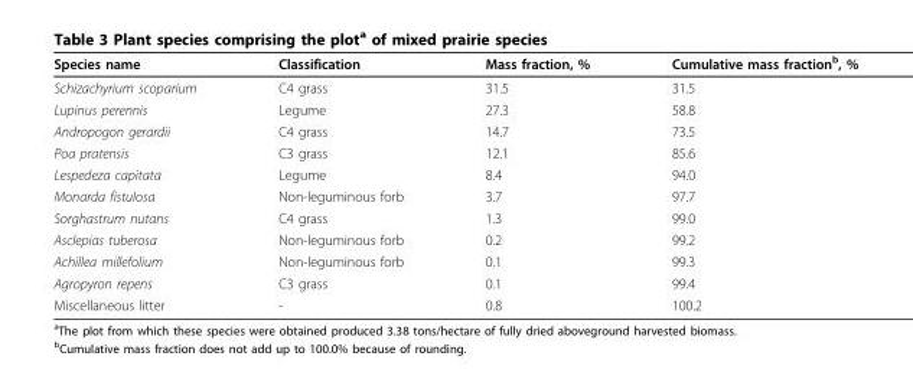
<table><thead><tr><td>Species name</td><td>Classification</td><td>Mass fraction, %</td><td>Cumulative mass fraction<sup>b</sup>, %</td></tr></thead><tbody><tr><td>Schizachyrium scoparium</td><td>C4 grass</td><td>31.5</td><td>31.5</td></tr><tr><td>Lupinus perennis</td><td>Legume</td><td>27.3</td><td>58.8</td></tr><tr><td>Andropogon gerardii</td><td>C4 grass</td><td>14.7</td><td>73.5</td></tr><tr><td>Poa pratensis</td><td>C3 grass</td><td>12.1</td><td>85.6</td></tr><tr><td>Lespedeza capitata</td><td>Legume</td><td>8.4</td><td>94.0</td></tr><tr><td>Monarda fistulosa</td><td>Non-leguminous forb</td><td>3.7</td><td>97.7</td></tr><tr><td>Sorghastrum nutans</td><td>C4 grass</td><td>1.3</td><td>99.0</td></tr><tr><td>Asclepias tuberosa</td><td>Non-leguminous forb</td><td>0.2</td><td>99.2</td></tr><tr><td>Achillea millefolium</td><td>Non-leguminous forb</td><td>0.1</td><td>99.3</td></tr><tr><td>Agropyron repens</td><td>C3 grass</td><td>0.1</td><td>99.4</td></tr><tr><td>Miscellaneous litter</td><td>-</td><td>0.8</td><td>100.2</td></tr></tbody></table>